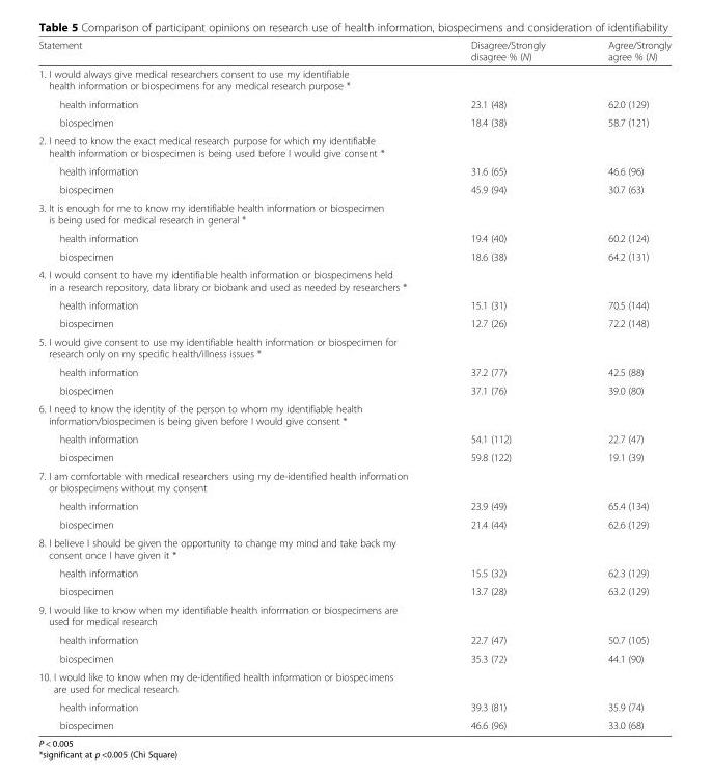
<table><thead><tr><td>Statement</td><td>Disagree/Strongly disagree % (N)</td><td>Agree/Strongly agree % (N)</td></tr></thead><tbody><tr><td colspan="3">1. I would always give medical researchers consent to use my identifiable health information or biospecimens for any medical research purpose *</td></tr><tr><td>health information</td><td>23.1 (48)</td><td>62.0 (129)</td></tr><tr><td>biospecimen</td><td>18.4 (38)</td><td>58.7 (121)</td></tr><tr><td colspan="3">2. I need to know the exact medical research purpose for which my identifiable health information or biospecimen is being used before I would give consent *</td></tr><tr><td>health information</td><td>31.6 (65)</td><td>46.6 (96)</td></tr><tr><td>biospecimen</td><td>45.9 (94)</td><td>30.7 (63)</td></tr><tr><td colspan="3">3. It is enough for me to know my identifiable health information or biospecimen is being used for medical research in general *</td></tr><tr><td>health information</td><td>19.4 (40)</td><td>60.2 (124)</td></tr><tr><td>biospecimen</td><td>18.6 (38)</td><td>64.2 (131)</td></tr><tr><td colspan="3">4. I would consent to have my identifiable health information or biospecimens held in a research repository, data library or biobank and used as needed by researchers *</td></tr><tr><td>health information</td><td>15.1 (31)</td><td>70.5 (144)</td></tr><tr><td>biospecimen</td><td>12.7 (26)</td><td>72.2 (148)</td></tr><tr><td colspan="3">5. I would give consent to use my identifiable health information or biospecimen for research only on my specific health/illness issues *</td></tr><tr><td>health information</td><td>37.2 (77)</td><td>42.5 (88)</td></tr><tr><td>biospecimen</td><td>37.1 (76)</td><td>39.0 (80)</td></tr><tr><td colspan="3">6. I need to know the identity of the person to whom my identifiable health information/biospecimen is being given before I would give consent *</td></tr><tr><td>health information</td><td>54.1 (112)</td><td>22.7 (47)</td></tr><tr><td>biospecimen</td><td>59.8 (122)</td><td>19.1 (39)</td></tr><tr><td colspan="3">7. I am comfortable with medical researchers using my de-identified health information or biospecimens without my consent</td></tr><tr><td>health information</td><td>23.9 (49)</td><td>65.4 (134)</td></tr><tr><td>biospecimen</td><td>21.4 (44)</td><td>62.6 (129)</td></tr><tr><td colspan="3">8. I believe I should be given the opportunity to change my mind and take back my consent once I have given it *</td></tr><tr><td>health information</td><td>15.5 (32)</td><td>62.3 (129)</td></tr><tr><td>biospecimen</td><td>13.7 (28)</td><td>63.2 (129)</td></tr><tr><td colspan="3">9. I would like to know when my identifiable health information or biospecimens are used for medical research</td></tr><tr><td>health information</td><td>22.7 (47)</td><td>50.7 (105)</td></tr><tr><td>biospecimen</td><td>35.3 (72)</td><td>44.1 (90)</td></tr><tr><td colspan="3">10. I would like to know when my de-identified health information or biospecimens are used for medical research</td></tr><tr><td>health information</td><td>39.3 (81)</td><td>35.9 (74)</td></tr><tr><td>biospecimen</td><td>46.6 (96)</td><td>33.0 (68)</td></tr></tbody></table>